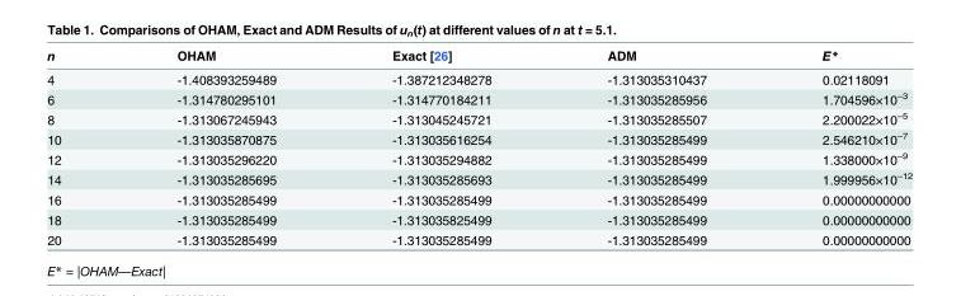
<table><thead><tr><td>n</td><td>OHAM</td><td>Exact [26]</td><td>ADM</td><td>E*</td></tr></thead><tbody><tr><td>4</td><td>-1.408393259489</td><td>-1.387212348278</td><td>-1.313035310437</td><td>0.02118091</td></tr><tr><td>6</td><td>-1.314780295101</td><td>-1.314770184211</td><td>-1.313035285956</td><td>1.704596×10<sup>–3</sup></td></tr><tr><td>8</td><td>-1.313067245943</td><td>-1.313045245721</td><td>-1.313035285507</td><td>2.200022×10<sup>–5</sup></td></tr><tr><td>10</td><td>-1.313035870875</td><td>-1.313035616254</td><td>-1.313035285499</td><td>2.546210×10<sup>–7</sup></td></tr><tr><td>12</td><td>-1.313035296220</td><td>-1.313035294882</td><td>-1.313035285499</td><td>1.338000×10<sup>–9</sup></td></tr><tr><td>14</td><td>-1.313035285695</td><td>-1.313035285693</td><td>-1.313035285499</td><td>1.999956×10<sup>–12</sup></td></tr><tr><td>16</td><td>-1.313035285499</td><td>-1.313035285499</td><td>-1.313035285499</td><td>0.00000000000</td></tr><tr><td>18</td><td>-1.313035285499</td><td>-1.313035825499</td><td>-1.313035285499</td><td>0.00000000000</td></tr><tr><td>20</td><td>-1.313035285499</td><td>-1.313035285499</td><td>-1.313035285499</td><td>0.00000000000</td></tr></tbody></table>